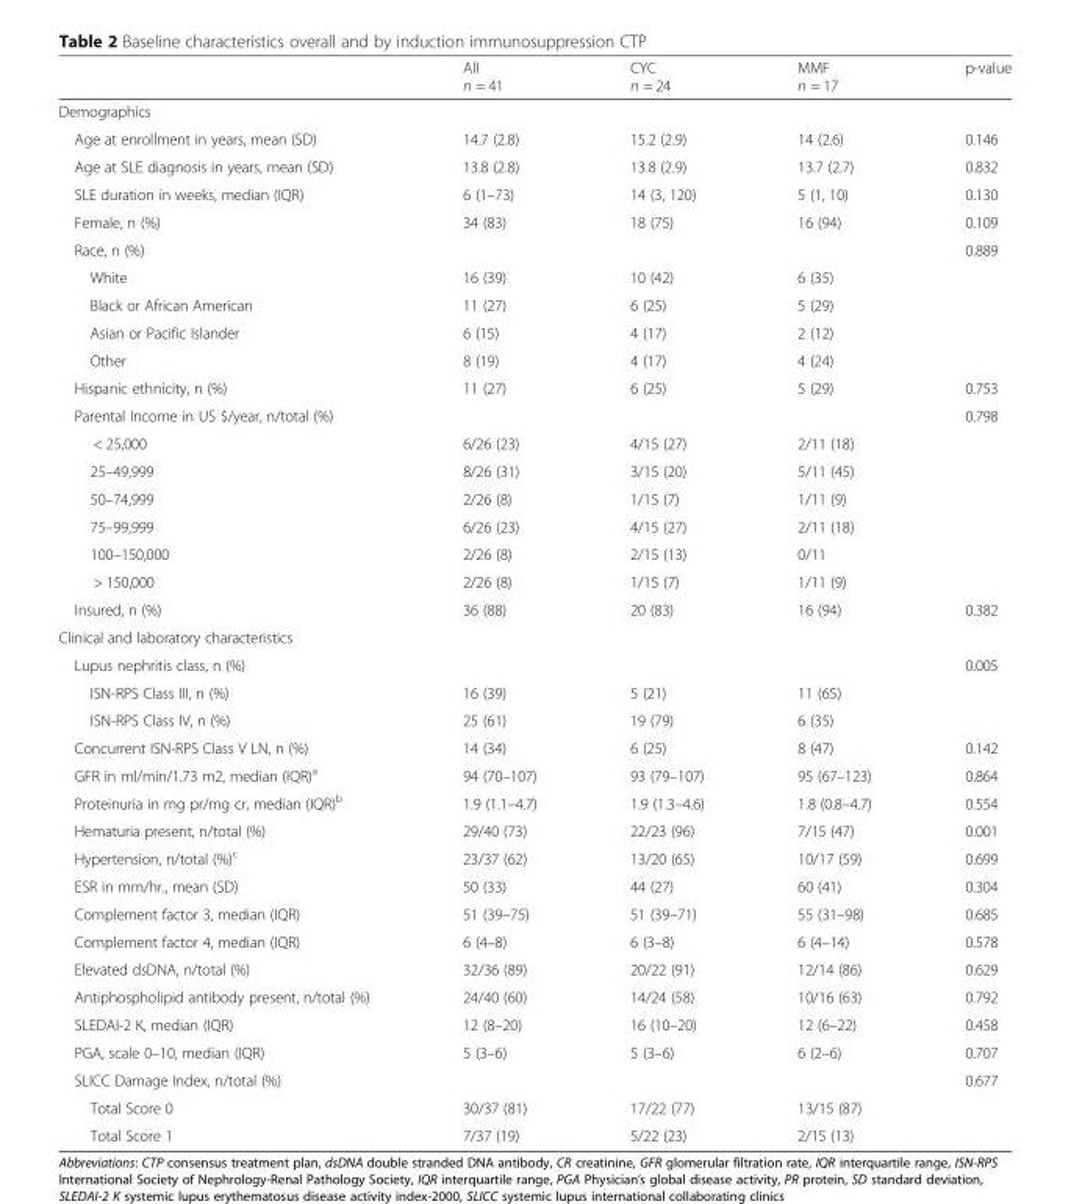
<table><thead><tr><td></td><td>All n = 41</td><td>CYC n = 24</td><td>MMF n = 17</td><td>p-value</td></tr></thead><tbody><tr><td colspan="5">Demographics</td></tr><tr><td>Age at enrollment in years, mean (SD)</td><td>14.7 (2.8)</td><td>15.2 (2.9)</td><td>14 (2.6)</td><td>0.146</td></tr><tr><td>Age at SLE diagnosis in years, mean (SD)</td><td>13.8 (2.8)</td><td>13.8 (2.9)</td><td>13.7 (2.7)</td><td>0.832</td></tr><tr><td>SLE duration in weeks, median (IQR)</td><td>6 (1–73)</td><td>14 (3, 120)</td><td>5 (1, 10)</td><td>0.130</td></tr><tr><td>Female, n (%)</td><td>34 (83)</td><td>18 (75)</td><td>16 (94)</td><td>0.109</td></tr><tr><td>Race, n (%)</td><td></td><td></td><td></td><td>0.889</td></tr><tr><td>White</td><td>16 (39)</td><td>10 (42)</td><td>6 (35)</td><td></td></tr><tr><td>Black or African American</td><td>11 (27)</td><td>6 (25)</td><td>5 (29)</td><td></td></tr><tr><td>Asian or Pacific Islander</td><td>6 (15)</td><td>4 (17)</td><td>2 (12)</td><td></td></tr><tr><td>Other</td><td>8 (19)</td><td>4 (17)</td><td>4 (24)</td><td></td></tr><tr><td>Hispanic ethnicity, n (%)</td><td>11 (27)</td><td>6 (25)</td><td>5 (29)</td><td>0.753</td></tr><tr><td colspan="4">Parental Income in US $/year, n/total (%)</td><td rowspan="7">0.798</td></tr><tr><td>&lt; 25,000</td><td>6/26 (23)</td><td>4/15 (27)</td><td>2/11 (18)</td></tr><tr><td>25–49,999</td><td>8/26 (31)</td><td>3/15 (20)</td><td>5/11 (45)</td></tr><tr><td>50–74,999</td><td>2/26 (8)</td><td>1/15 (7)</td><td>1/11 (9)</td></tr><tr><td>75–99,999</td><td>6/26 (23)</td><td>4/15 (27)</td><td>2/11 (18)</td></tr><tr><td>100–150,000</td><td>2/26 (8)</td><td>2/15 (13)</td><td>0/11</td></tr><tr><td>&gt; 150,000</td><td>2/26 (8)</td><td>1/15 (7)</td><td>1/11 (9)</td></tr><tr><td>Insured, n (%)</td><td>36 (88)</td><td>20 (83)</td><td>16 (94)</td><td>0.382</td></tr><tr><td colspan="5">Clinical and laboratory characteristics</td></tr><tr><td>Lupus nephritis class, n (%)</td><td></td><td></td><td></td><td>0.005</td></tr><tr><td>ISN-RPS Class III, n (%)</td><td>16 (39)</td><td>5 (21)</td><td>11 (65)</td><td></td></tr><tr><td>ISN-RPS Class IV, n (%)</td><td>25 (61)</td><td>19 (79)</td><td>6 (35)</td><td></td></tr><tr><td>Concurrent ISN-RPS Class V LN, n (%)</td><td>14 (34)</td><td>6 (25)</td><td>8 (47)</td><td>0.142</td></tr><tr><td>GFR in ml/min/1.73 m2, median (IQR)<sup>a</sup></td><td>94 (70–107)</td><td>93 (79–107)</td><td>95 (67–123)</td><td>0.864</td></tr><tr><td>Proteinuria in mg pr/mg cr, median (IQR)<sup>b</sup></td><td>1.9 (1.1–4.7)</td><td>1.9 (1.3–4.6)</td><td>1.8 (0.8–4.7)</td><td>0.554</td></tr><tr><td>Hematuria present, n/total (%)</td><td>29/40 (73)</td><td>22/23 (96)</td><td>7/15 (47)</td><td>0.001</td></tr><tr><td>Hypertension, n/total (%)<sup>c</sup></td><td>23/37 (62)</td><td>13/20 (65)</td><td>10/17 (59)</td><td>0.699</td></tr><tr><td>ESR in mm/hr., mean (SD)</td><td>50 (33)</td><td>44 (27)</td><td>60 (41)</td><td>0.304</td></tr><tr><td>Complement factor 3, median (IQR)</td><td>51 (39–75)</td><td>51 (39–71)</td><td>55 (31–98)</td><td>0.685</td></tr><tr><td>Complement factor 4, median (IQR)</td><td>6 (4–8)</td><td>6 (3–8)</td><td>6 (4–14)</td><td>0.578</td></tr><tr><td>Elevated dsDNA, n/total (%)</td><td>32/36 (89)</td><td>20/22 (91)</td><td>12/14 (86)</td><td>0.629</td></tr><tr><td>Antiphospholipid antibody present, n/total (%)</td><td>24/40 (60)</td><td>14/24 (58)</td><td>10/16 (63)</td><td>0.792</td></tr><tr><td>SLEDAI-2 K, median (IQR)</td><td>12 (8–20)</td><td>16 (10–20)</td><td>12 (6–22)</td><td>0.458</td></tr><tr><td>PGA, scale 0–10, median (IQR)</td><td>5 (3–6)</td><td>5 (3–6)</td><td>6 (2–6)</td><td>0.707</td></tr><tr><td>SLICC Damage Index, n/total (%)</td><td></td><td></td><td></td><td>0.677</td></tr><tr><td>Total Score 0</td><td>30/37 (81)</td><td>17/22 (77)</td><td>13/15 (87)</td><td></td></tr><tr><td>Total Score 1</td><td>7/37 (19)</td><td>5/22 (23)</td><td>2/15 (13)</td><td></td></tr></tbody></table>